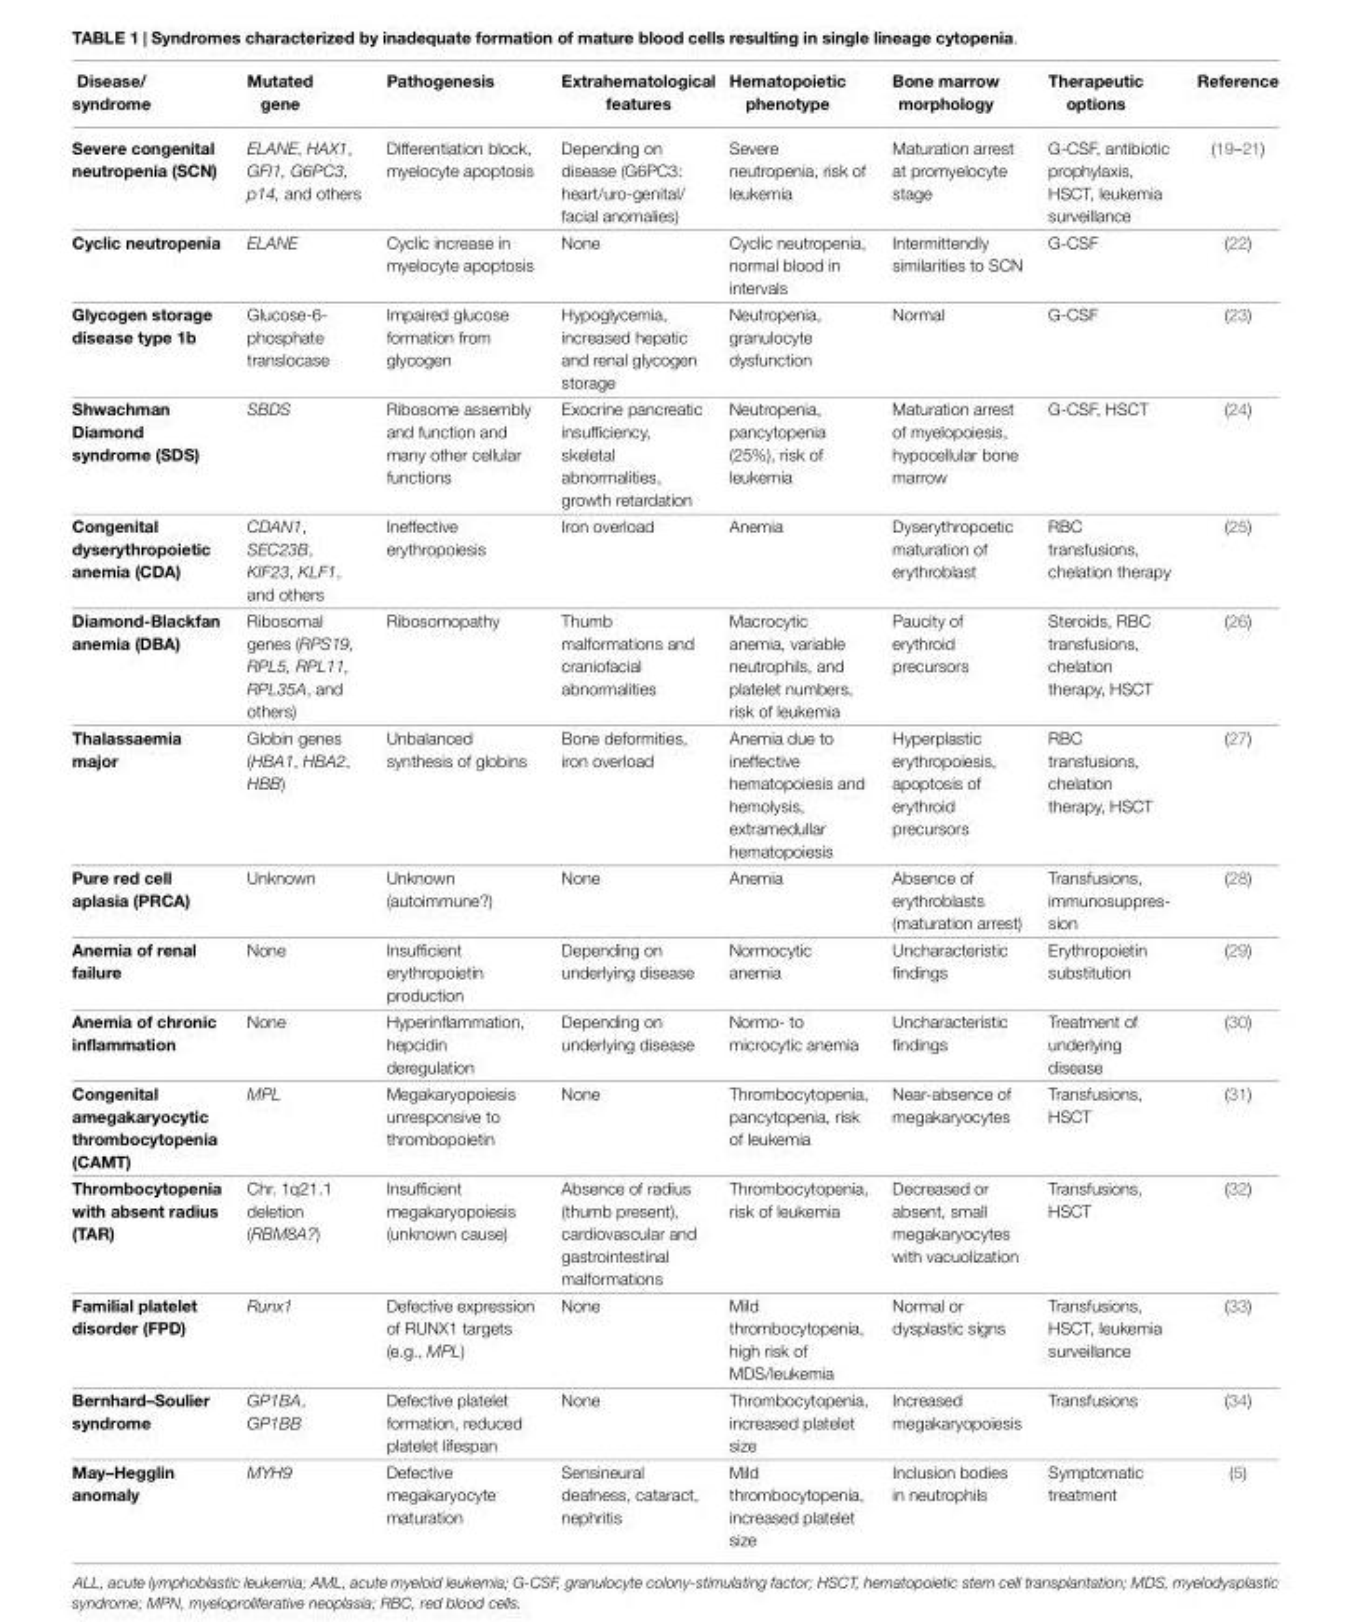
<table><thead><tr><td rowspan="3">Disease/ syndrome Severe congenital neutropenia (SCN) Cyclic neutropenia</td><td rowspan="3">Mutated gene ELANE, HAX1, GFI1, G6PC3, p14, and others ELANE</td><td rowspan="3">Pathogenesis Differentiation block, myelocyte apoptosis Cyclic increase in myelocyte apoptosis</td><td rowspan="3">Extrahematological features Depending on disease (G6PC3: heart/uro-genital/ facial anomalies) None</td><td rowspan="3">Hematopoietic phenotype Severe neutropenia, risk of leukemia Cyclic neutropenia, normal blood in intervals</td><td rowspan="3">Bone marrow morphology Maturation arrest at promyelocyte stage Intermittendly similarities to SCN</td><td rowspan="3">Therapeutic options G-CSF, antibiotic prophylaxis, HSCT, leukemia surveillance G-CSF</td><td rowspan="3">Reference (19–21) (22)</td></tr><tr></tr><tr></tr></thead><tbody><tr><td>Glycogen storage disease type 1b</td><td>Glucose-6- phosphate translocase</td><td>Impaired glucose formation from glycogen</td><td>Hypoglycemia, increased hepatic and renal glycogen storage</td><td>Neutropenia, granulocyte dysfunction</td><td>Normal</td><td>G-CSF</td><td>(23)</td></tr><tr><td>Shwachman Diamond syndrome (SDS)</td><td>SBDS</td><td>Ribosome assembly and function and many other cellular functions</td><td>Exocrine pancreatic insufficiency, skeletal abnormalities, growth retardation</td><td>Neutropenia, pancytopenia (25%), risk of leukemia</td><td>Maturation arrest of myelopoiesis, hypocellular bone marrow</td><td>G-CSF, HSCT</td><td>(24)</td></tr><tr><td>Congenital dyserythropoietic anemia (CDA)</td><td>CDAN1, SEC23B, KIF23, KLF1, and others</td><td>Ineffective erythropoiesis</td><td>Iron overload</td><td>Anemia</td><td>Dyserythropoetic maturation of erythroblast</td><td>RBC transfusions, chelation therapy</td><td>(25)</td></tr><tr><td>Diamond-Blackfan anemia (DBA)</td><td>Ribosomal genes (RPS19, RPL5, RPL11, RPL35A, and others)</td><td>Ribosomopathy</td><td>Thumb malformations and craniofacial abnormalities</td><td>Macrocytic anemia, variable neutrophils, and platelet numbers, risk of leukemia</td><td>Paucity of erythroid precursors</td><td>Steroids, RBC transfusions, chelation therapy, HSCT</td><td>(26)</td></tr><tr><td>Thalassaemia major</td><td>Globin genes (HBA1, HBA2, HBB)</td><td>Unbalanced synthesis of globins</td><td>Bone deformities, iron overload</td><td>Anemia due to ineffective hematopoiesis and hemolysis, extramedullar hematopoiesis</td><td>Hyperplastic erythropoiesis, apoptosis of erythroid precursors</td><td>RBC transfusions, chelation therapy, HSCT</td><td>(27)</td></tr><tr><td>Pure red cell aplasia (PRCA)</td><td>Unknown</td><td>Unknown (autoimmune?)</td><td>None</td><td>Anemia</td><td>Absence of erythroblasts (maturation arrest)</td><td>Transfusions, immunosuppres- sion</td><td>(28)</td></tr><tr><td>Anemia of renal failure</td><td>None</td><td>Insufficient erythropoietin production</td><td>Depending on underlying disease</td><td>Normocytic anemia</td><td>Uncharacteristic findings</td><td>Erythropoietin substitution</td><td>(29)</td></tr><tr><td>Anemia of chronic inflammation</td><td>None</td><td>Hyperinflammation, hepcidin deregulation</td><td>Depending on underlying disease</td><td>Normo- to microcytic anemia</td><td>Uncharacteristic findings</td><td>Treatment of underlying disease</td><td>(30)</td></tr><tr><td>Congenital amegakaryocytic thrombocytopenia (CAMT)</td><td>MPL</td><td>Megakaryopoiesis unresponsive to thrombopoietin</td><td>None</td><td>Thrombocytopenia, pancytopenia, risk of leukemia</td><td>Near-absence of megakaryocytes</td><td>Transfusions, HSCT</td><td>(31)</td></tr><tr><td>Thrombocytopenia with absent radius (TAR)</td><td>Chr. 1q21.1 deletion (RBM8A?)</td><td>Insufficient megakaryopoiesis (unknown cause)</td><td>Absence of radius (thumb present), cardiovascular and gastrointestinal malformations</td><td>Thrombocytopenia, risk of leukemia</td><td>Decreased or absent, small megakaryocytes with vacuolization</td><td>Transfusions, HSCT</td><td>(32)</td></tr><tr><td>Familial platelet disorder (FPD)</td><td>Runx1</td><td>Defective expression of RUNX1 targets (e.g., MPL)</td><td>None</td><td>Mild thrombocytopenia, high risk of MDS/leukemia</td><td>Normal or dysplastic signs</td><td>Transfusions, HSCT, leukemia surveillance</td><td>(33)</td></tr><tr><td>Bernhard–Soulier syndrome</td><td>GP1BA, GP1BB</td><td>Defective platelet formation, reduced platelet lifespan</td><td>None</td><td>Thrombocytopenia, increased platelet size</td><td>Increased megakaryopoiesis</td><td>Transfusions</td><td>(34)</td></tr><tr><td>May–Hegglin anomaly</td><td>MYH9</td><td>Defective megakaryocyte maturation</td><td>Sensineural deafness, cataract, nephritis</td><td>Mild thrombocytopenia, increased platelet size</td><td>Inclusion bodies in neutrophils</td><td>Symptomatic treatment</td><td>(5)</td></tr></tbody></table>